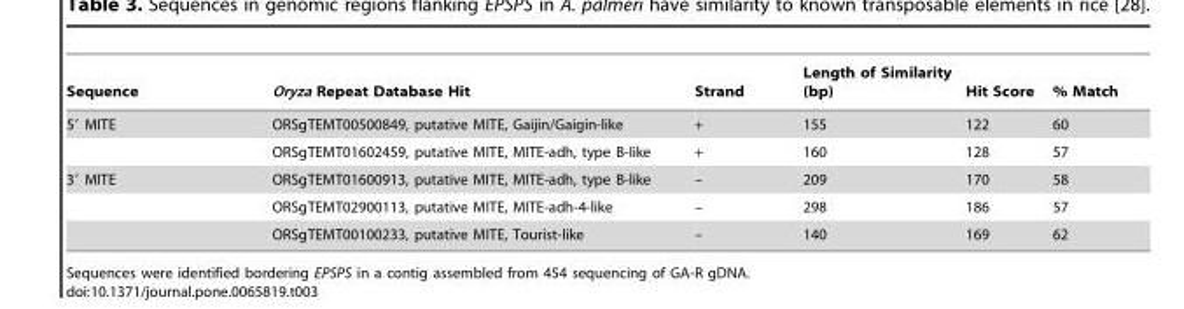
<table><thead><tr><td>Sequence</td><td>Oryza Repeat Database Hit</td><td>Strand</td><td>Length of Similarity (bp)</td><td>Hit Score</td><td>% Match</td></tr></thead><tbody><tr><td rowspan="2">5′ MITE</td><td>ORSgTEMT00500849, putative MITE, Gaijin/Gaigin-like</td><td>+</td><td>155</td><td>122</td><td>60</td></tr><tr><td>ORSgTEMT01602459, putative MITE, MITE-adh, type B-like</td><td>+</td><td>160</td><td>128</td><td>57</td></tr><tr><td rowspan="3">3′ MITE</td><td>ORSgTEMT01600913, putative MITE, MITE-adh, type B-like</td><td>–</td><td>209</td><td>170</td><td>58</td></tr><tr><td>ORSgTEMT02900113, putative MITE, MITE-adh-4-like</td><td>–</td><td>298</td><td>186</td><td>57</td></tr><tr><td>ORSgTEMT00100233, putative MITE, Tourist-like</td><td>–</td><td>140</td><td>169</td><td>62</td></tr></tbody></table>